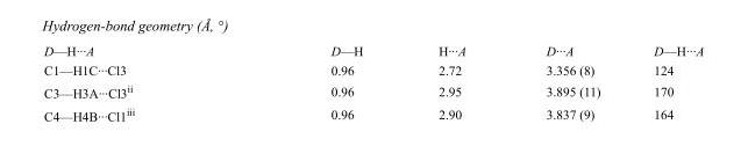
<table><tbody><tr><td>D—H···A</td><td>D—H</td><td>H···A</td><td>D···A</td><td>D—H···A</td></tr><tr><td>C1—H1C···Cl3</td><td>0.96</td><td>2.72</td><td>3.356 (8)</td><td>124</td></tr><tr><td>C3—H3A···Cl3<sup>ii</sup></td><td>0.96</td><td>2.95</td><td>3.895 (11)</td><td>170</td></tr><tr><td>C4—H4B···Cl1<sup>iii</sup></td><td>0.96</td><td>2.90</td><td>3.837 (9)</td><td>164</td></tr></tbody></table>